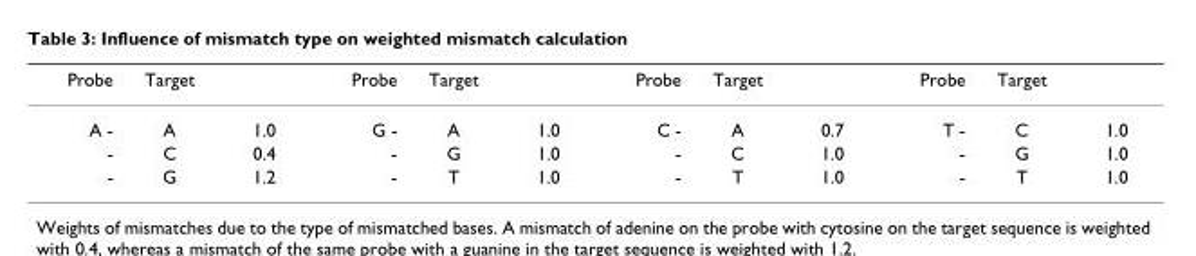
<table><thead><tr><td>Probe</td><td>Target</td><td></td><td>Probe</td><td>Target</td><td></td><td>Probe</td><td>Target</td><td></td><td>Probe</td><td>Target</td><td></td></tr></thead><tbody><tr><td>A -</td><td>A</td><td>1.0</td><td>G -</td><td>A</td><td>1.0</td><td>C -</td><td>A</td><td>0.7</td><td>T -</td><td>C</td><td>1.0</td></tr><tr><td>-</td><td>C</td><td>0.4</td><td>-</td><td>G</td><td>1.0</td><td>-</td><td>C</td><td>1.0</td><td>-</td><td>G</td><td>1.0</td></tr><tr><td>-</td><td>G</td><td>1.2</td><td>-</td><td>T</td><td>1.0</td><td>-</td><td>T</td><td>1.0</td><td>-</td><td>T</td><td>1.0</td></tr></tbody></table>